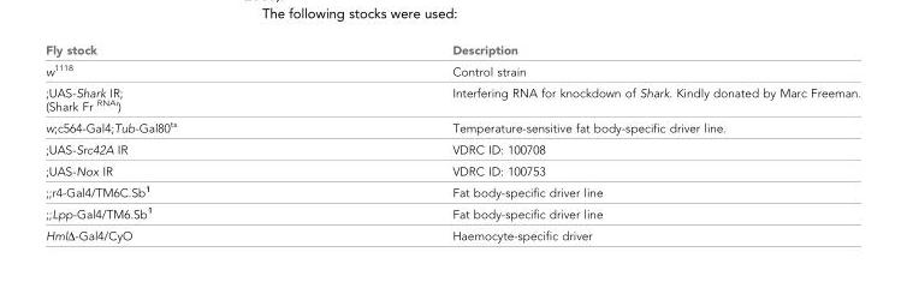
<table><thead><tr><td>Fly stock</td><td>Description</td></tr></thead><tbody><tr><td>w<sup>1118</sup></td><td>Control strain</td></tr><tr><td>;UAS-Shark IR; (Shark Fr <sup>RNAi</sup>)</td><td>Interfering RNA for knockdown of Shark. Kindly donated by Marc Freeman.</td></tr><tr><td>w;c564-Gal4;Tub-Gal80<sup>ts</sup></td><td>Temperature-sensitive fat body-specific driver line.</td></tr><tr><td>;UAS-Src42A IR</td><td>VDRC ID: 100708</td></tr><tr><td>;UAS-Nox IR</td><td>VDRC ID: 100753</td></tr><tr><td>;;r4-Gal4/TM6C.Sb<sup>1</sup></td><td>Fat body-specific driver line</td></tr><tr><td>;;Lpp-Gal4/TM6.Sb<sup>1</sup></td><td>Fat body-specific driver line</td></tr><tr><td>HmlΔ-Gal4/CyO</td><td>Haemocyte-specific driver</td></tr></tbody></table>